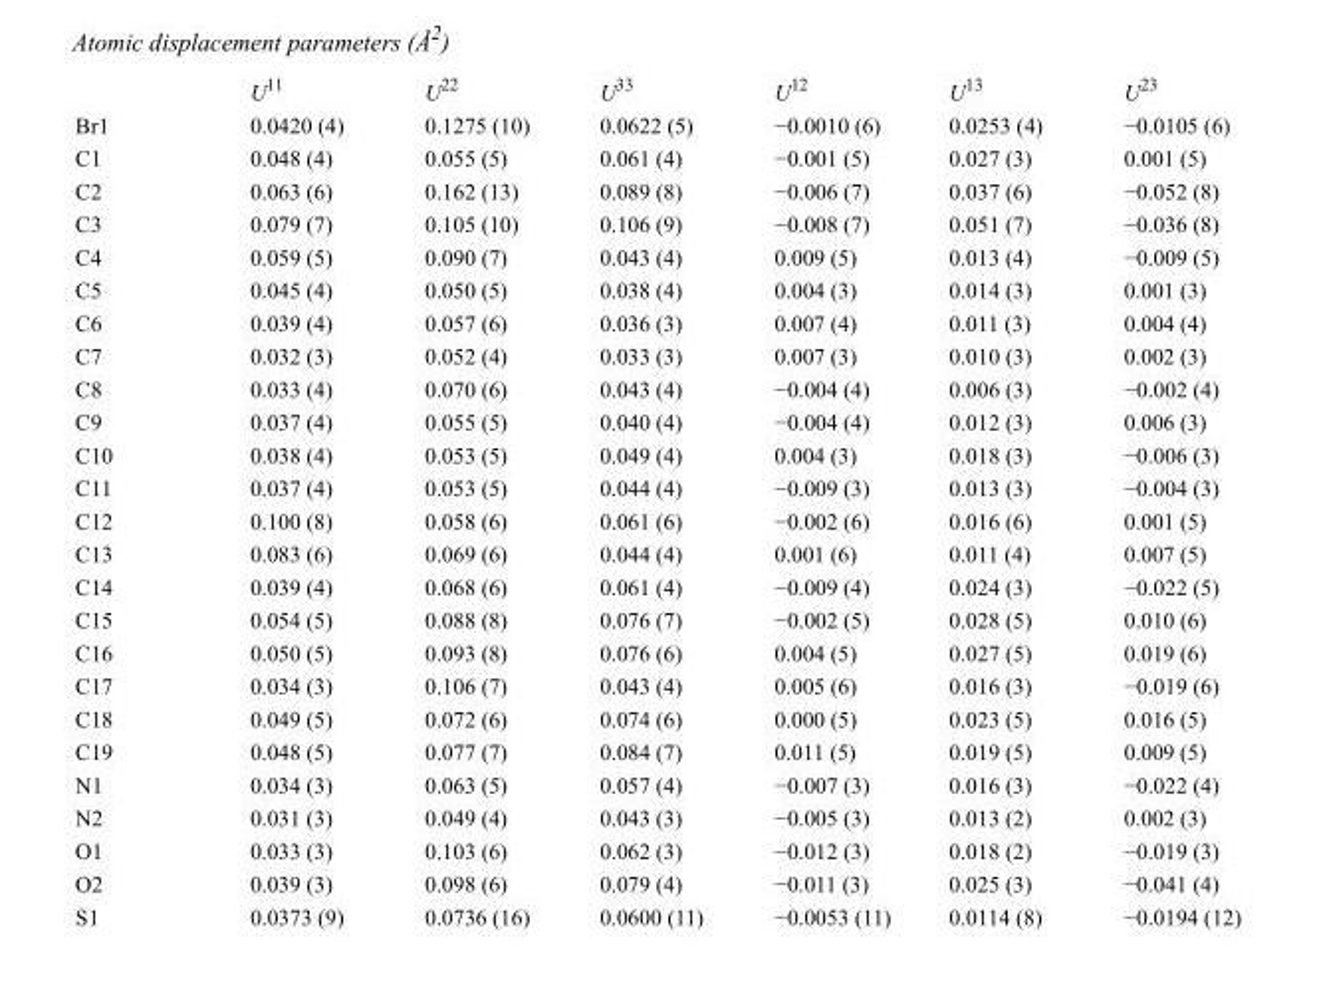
<table><thead><tr><td></td><td>U<sup>11</sup></td><td>U<sup>22</sup></td><td>U<sup>33</sup></td><td>U<sup>12</sup></td><td>U<sup>13</sup></td><td>U<sup>23</sup></td></tr></thead><tbody><tr><td>Br1</td><td>0.0420 (4)</td><td>0.1275 (10)</td><td>0.0622 (5)</td><td>−0.0010 (6)</td><td>0.0253 (4)</td><td>−0.0105 (6)</td></tr><tr><td>C1</td><td>0.048 (4)</td><td>0.055 (5)</td><td>0.061 (4)</td><td>−0.001 (5)</td><td>0.027 (3)</td><td>0.001 (5)</td></tr><tr><td>C2</td><td>0.063 (6)</td><td>0.162 (13)</td><td>0.089 (8)</td><td>−0.006 (7)</td><td>0.037 (6)</td><td>−0.052 (8)</td></tr><tr><td>C3</td><td>0.079 (7)</td><td>0.105 (10)</td><td>0.106 (9)</td><td>−0.008 (7)</td><td>0.051 (7)</td><td>−0.036 (8)</td></tr><tr><td>C4</td><td>0.059 (5)</td><td>0.090 (7)</td><td>0.043 (4)</td><td>0.009 (5)</td><td>0.013 (4)</td><td>−0.009 (5)</td></tr><tr><td>C5</td><td>0.045 (4)</td><td>0.050 (5)</td><td>0.038 (4)</td><td>0.004 (3)</td><td>0.014 (3)</td><td>0.001 (3)</td></tr><tr><td>C6</td><td>0.039 (4)</td><td>0.057 (6)</td><td>0.036 (3)</td><td>0.007 (4)</td><td>0.011 (3)</td><td>0.004 (4)</td></tr><tr><td>C7</td><td>0.032 (3)</td><td>0.052 (4)</td><td>0.033 (3)</td><td>0.007 (3)</td><td>0.010 (3)</td><td>0.002 (3)</td></tr><tr><td>C8</td><td>0.033 (4)</td><td>0.070 (6)</td><td>0.043 (4)</td><td>−0.004 (4)</td><td>0.006 (3)</td><td>−0.002 (4)</td></tr><tr><td>C9</td><td>0.037 (4)</td><td>0.055 (5)</td><td>0.040 (4)</td><td>−0.004 (4)</td><td>0.012 (3)</td><td>0.006 (3)</td></tr><tr><td>C10</td><td>0.038 (4)</td><td>0.053 (5)</td><td>0.049 (4)</td><td>0.004 (3)</td><td>0.018 (3)</td><td>−0.006 (3)</td></tr><tr><td>C11</td><td>0.037 (4)</td><td>0.053 (5)</td><td>0.044 (4)</td><td>−0.009 (3)</td><td>0.013 (3)</td><td>−0.004 (3)</td></tr><tr><td>C12</td><td>0.100 (8)</td><td>0.058 (6)</td><td>0.061 (6)</td><td>−0.002 (6)</td><td>0.016 (6)</td><td>0.001 (5)</td></tr><tr><td>C13</td><td>0.083 (6)</td><td>0.069 (6)</td><td>0.044 (4)</td><td>0.001 (6)</td><td>0.011 (4)</td><td>0.007 (5)</td></tr><tr><td>C14</td><td>0.039 (4)</td><td>0.068 (6)</td><td>0.061 (4)</td><td>−0.009 (4)</td><td>0.024 (3)</td><td>−0.022 (5)</td></tr><tr><td>C15</td><td>0.054 (5)</td><td>0.088 (8)</td><td>0.076 (7)</td><td>−0.002 (5)</td><td>0.028 (5)</td><td>0.010 (6)</td></tr><tr><td>C16</td><td>0.050 (5)</td><td>0.093 (8)</td><td>0.076 (6)</td><td>0.004 (5)</td><td>0.027 (5)</td><td>0.019 (6)</td></tr><tr><td>C17</td><td>0.034 (3)</td><td>0.106 (7)</td><td>0.043 (4)</td><td>0.005 (6)</td><td>0.016 (3)</td><td>−0.019 (6)</td></tr><tr><td>C18</td><td>0.049 (5)</td><td>0.072 (6)</td><td>0.074 (6)</td><td>0.000 (5)</td><td>0.023 (5)</td><td>0.016 (5)</td></tr><tr><td>C19</td><td>0.048 (5)</td><td>0.077 (7)</td><td>0.084 (7)</td><td>0.011 (5)</td><td>0.019 (5)</td><td>0.009 (5)</td></tr><tr><td>N1</td><td>0.034 (3)</td><td>0.063 (5)</td><td>0.057 (4)</td><td>−0.007 (3)</td><td>0.016 (3)</td><td>−0.022 (4)</td></tr><tr><td>N2</td><td>0.031 (3)</td><td>0.049 (4)</td><td>0.043 (3)</td><td>−0.005 (3)</td><td>0.013 (2)</td><td>0.002 (3)</td></tr><tr><td>O1</td><td>0.033 (3)</td><td>0.103 (6)</td><td>0.062 (3)</td><td>−0.012 (3)</td><td>0.018 (2)</td><td>−0.019 (3)</td></tr><tr><td>O2</td><td>0.039 (3)</td><td>0.098 (6)</td><td>0.079 (4)</td><td>−0.011 (3)</td><td>0.025 (3)</td><td>−0.041 (4)</td></tr><tr><td>S1</td><td>0.0373 (9)</td><td>0.0736 (16)</td><td>0.0600 (11)</td><td>−0.0053 (11)</td><td>0.0114 (8)</td><td>−0.0194 (12)</td></tr></tbody></table>